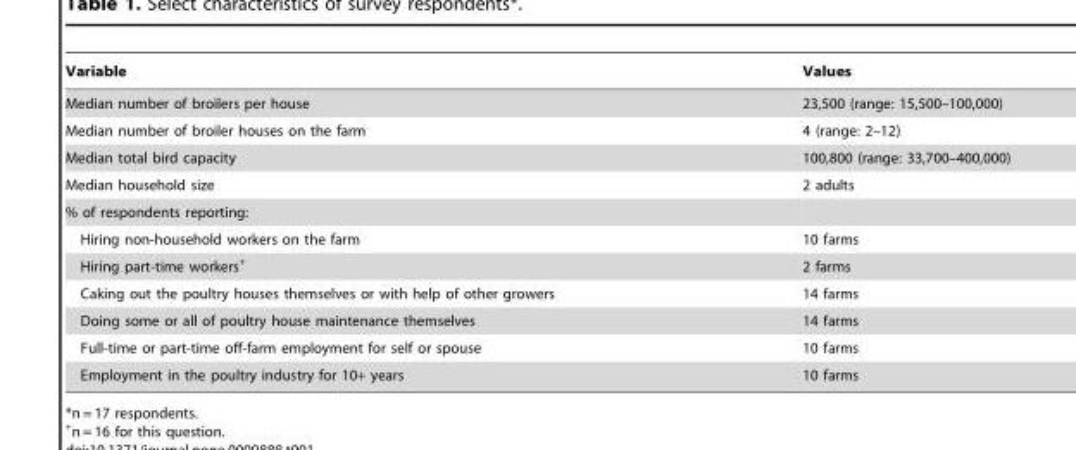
<table><thead><tr><td>Variable</td><td>Values</td></tr></thead><tbody><tr><td>Median number of broilers per house</td><td>23,500 (range: 15,500–100,000)</td></tr><tr><td>Median number of broiler houses on the farm</td><td>4 (range: 2–12)</td></tr><tr><td>Median total bird capacity</td><td>100,800 (range: 33,700–400,000)</td></tr><tr><td>Median household size</td><td>2 adults</td></tr><tr><td colspan="2">% of respondents reporting:</td></tr><tr><td>Hiring non-household workers on the farm</td><td>10 farms</td></tr><tr><td>Hiring part-time workers+</td><td>2 farms</td></tr><tr><td>Caking out the poultry houses themselves or with help of other growers</td><td>14 farms</td></tr><tr><td>Doing some or all of poultry house maintenance themselves</td><td>14 farms</td></tr><tr><td>Full-time or part-time off-farm employment for self or spouse</td><td>10 farms</td></tr><tr><td>Employment in the poultry industry for 10+ years</td><td>10 farms</td></tr></tbody></table>